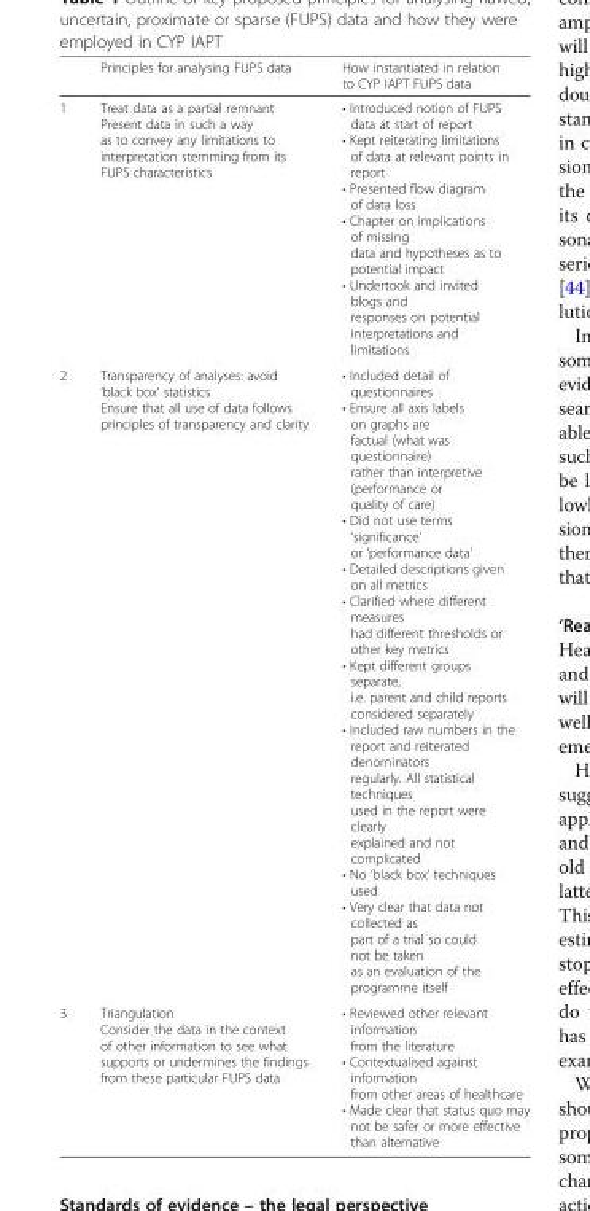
<table><thead><tr><td></td><td>Principles for analysing FUPS data</td><td>How instantiated in relation to CYP IAPT FUPS data</td></tr></thead><tbody><tr><td>1</td><td>Treat data as a partial remnant Present data in such a way as to convey any limitations to interpretation stemming from its FUPS characteristics</td><td>• Introduced notion of FUPS data at start of report • Kept reiterating limitations of data at relevant points in report • Presented flow diagram of data loss • Chapter on implications of missing data and hypotheses as to potential impact • Undertook and invited blogs and responses on potential interpretations and limitations</td></tr><tr><td>2</td><td>Transparency of analyses: avoid ‘black box’ statistics Ensure that all use of data follows principles of transparency and clarity</td><td>• Included detail of questionnaires • Ensure all axis labels on graphs are factual (what was questionnaire) rather than interpretive (performance or quality of care) • Did not use terms ‘significance’ or ‘performance data’ • Detailed descriptions given on all metrics • Clarified where different measures had different thresholds or other key metrics • Kept different groups separate, i.e. parent and child reports considered separately • Included raw numbers in the report and reiterated denominators regularly. All statistical techniques used in the report were clearly explained and not complicated • No ‘black box’ techniques used • Very clear that data not collected as part of a trial so could not be taken as an evaluation of the programme itself</td></tr><tr><td>3</td><td>Triangulation Consider the data in the context of other information to see what supports or undermines the findings from these particular FUPS data</td><td>• Reviewed other relevant information from the literature • Contextualised against information from other areas of healthcare • Made clear that status quo may not be safer or more effective than alternative</td></tr></tbody></table>